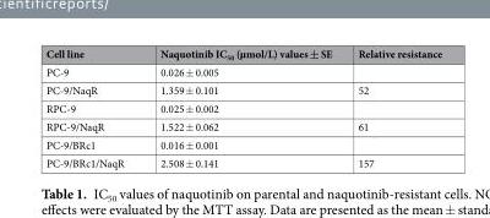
<table><thead><tr><td>Cell line</td><td>Naquotinib IC<sub>50</sub> (µmol/L) values ± SE</td><td>Relative resistance</td></tr></thead><tbody><tr><td>PC-9</td><td>0.026 ± 0.005</td><td></td></tr><tr><td>PC-9/NaqR</td><td>1.359 ± 0.101</td><td>52</td></tr><tr><td>RPC-9</td><td>0.025 ± 0.002</td><td></td></tr><tr><td>RPC-9/NaqR</td><td>1.522 ± 0.062</td><td>61</td></tr><tr><td>PC-9/BRc1</td><td>0.016 ± 0.001</td><td></td></tr><tr><td>PC-9/BRc1/NaqR</td><td>2.508 ± 0.141</td><td>157</td></tr></tbody></table>